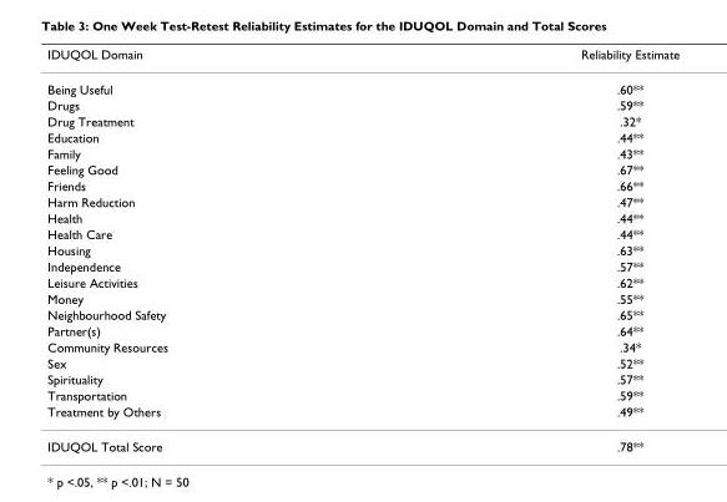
<table><thead><tr><td>IDUQOL Domain</td><td>Reliability Estimate</td></tr></thead><tbody><tr><td>Being Useful</td><td>.60**</td></tr><tr><td>Drugs</td><td>.59**</td></tr><tr><td>Drug Treatment</td><td>.32*</td></tr><tr><td>Education</td><td>.44**</td></tr><tr><td>Family</td><td>.43**</td></tr><tr><td>Feeling Good</td><td>.67**</td></tr><tr><td>Friends</td><td>.66**</td></tr><tr><td>Harm Reduction</td><td>.47**</td></tr><tr><td>Health</td><td>.44**</td></tr><tr><td>Health Care</td><td>.44**</td></tr><tr><td>Housing</td><td>.63**</td></tr><tr><td>Independence</td><td>.57**</td></tr><tr><td>Leisure Activities</td><td>.62**</td></tr><tr><td>Money</td><td>.55**</td></tr><tr><td>Neighbourhood Safety</td><td>.65**</td></tr><tr><td>Partner(s)</td><td>.64**</td></tr><tr><td>Community Resources</td><td>.34*</td></tr><tr><td>Sex</td><td>.52**</td></tr><tr><td>Spirituality</td><td>.57**</td></tr><tr><td>Transportation</td><td>.59**</td></tr><tr><td>Treatment by Others</td><td>.49**</td></tr><tr><td>IDUQOL Total Score</td><td>.78**</td></tr></tbody></table>